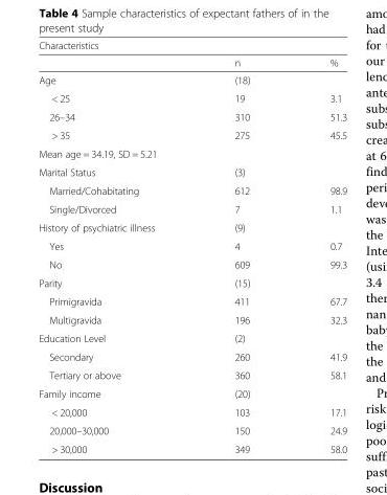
<table><thead><tr><td colspan="3">Characteristics</td></tr><tr><td></td><td>n</td><td>%</td></tr></thead><tbody><tr><td>Age</td><td>(18)</td><td></td></tr><tr><td>&lt; 25</td><td>19</td><td>3.1</td></tr><tr><td>26–34</td><td>310</td><td>51.3</td></tr><tr><td>&gt; 35</td><td>275</td><td>45.5</td></tr><tr><td colspan="3">Mean age = 34.19, SD = 5.21</td></tr><tr><td>Marital Status</td><td>(3)</td><td></td></tr><tr><td>Married/Cohabitating</td><td>612</td><td>98.9</td></tr><tr><td>Single/Divorced</td><td>7</td><td>1.1</td></tr><tr><td>History of psychiatric illness</td><td>(9)</td><td></td></tr><tr><td>Yes</td><td>4</td><td>0.7</td></tr><tr><td>No</td><td>609</td><td>99.3</td></tr><tr><td>Parity</td><td>(15)</td><td></td></tr><tr><td>Primigravida</td><td>411</td><td>67.7</td></tr><tr><td>Multigravida</td><td>196</td><td>32.3</td></tr><tr><td>Education Level</td><td>(2)</td><td></td></tr><tr><td>Secondary</td><td>260</td><td>41.9</td></tr><tr><td>Tertiary or above</td><td>360</td><td>58.1</td></tr><tr><td>Family income</td><td>(20)</td><td></td></tr><tr><td>&lt; 20,000</td><td>103</td><td>17.1</td></tr><tr><td>20,000–30,000</td><td>150</td><td>24.9</td></tr><tr><td>&gt; 30,000</td><td>349</td><td>58.0</td></tr></tbody></table>